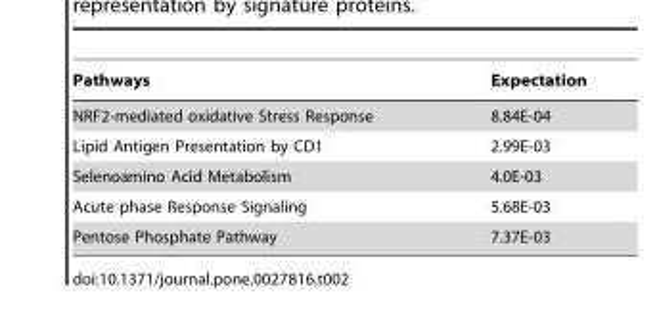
<table><thead><tr><td>Pathways</td><td>Expectation</td></tr></thead><tbody><tr><td>NRF2-mediated oxidative Stress Response</td><td>8.84E-04</td></tr><tr><td>Lipid Antigen Presentation by CD1</td><td>2.99E-03</td></tr><tr><td>Selenoamino Acid Metabolism</td><td>4.0E-03</td></tr><tr><td>Acute phase Response Signaling</td><td>5.68E-03</td></tr><tr><td>Pentose Phosphate Pathway</td><td>7.37E-03</td></tr></tbody></table>